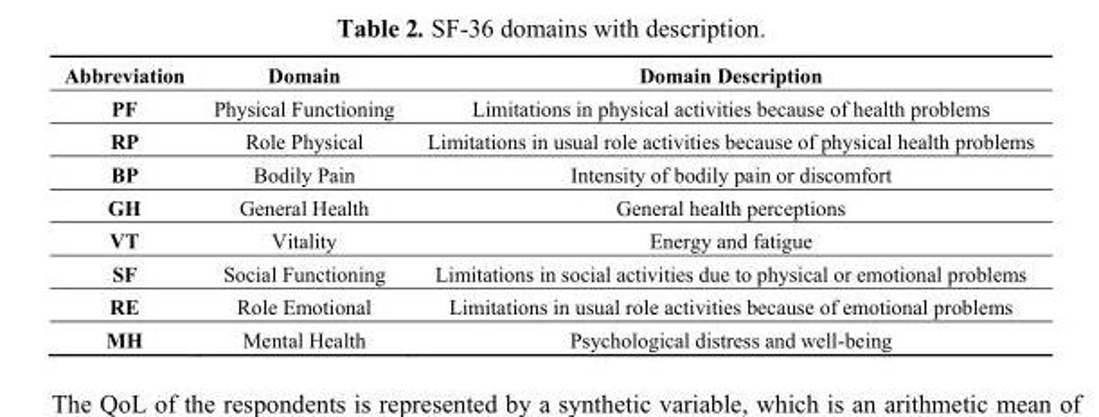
<table><thead><tr><td>Abbreviation</td><td>Domain</td><td>Domain Description</td></tr></thead><tbody><tr><td>PF</td><td>Physical Functioning</td><td>Limitations in physical activities because of health problems</td></tr><tr><td>RP</td><td>Role Physical</td><td>Limitations in usual role activities because of physical health problems</td></tr><tr><td>BP</td><td>Bodily Pain</td><td>Intensity of bodily pain or discomfort</td></tr><tr><td>GH</td><td>General Health</td><td>General health perceptions</td></tr><tr><td>VT</td><td>Vitality</td><td>Energy and fatigue</td></tr><tr><td>SF</td><td>Social Functioning</td><td>Limitations in social activities due to physical or emotional problems</td></tr><tr><td>RE</td><td>Role Emotional</td><td>Limitations in usual role activities because of emotional problems</td></tr><tr><td>MH</td><td>Mental Health</td><td>Psychological distress and well-being</td></tr></tbody></table>